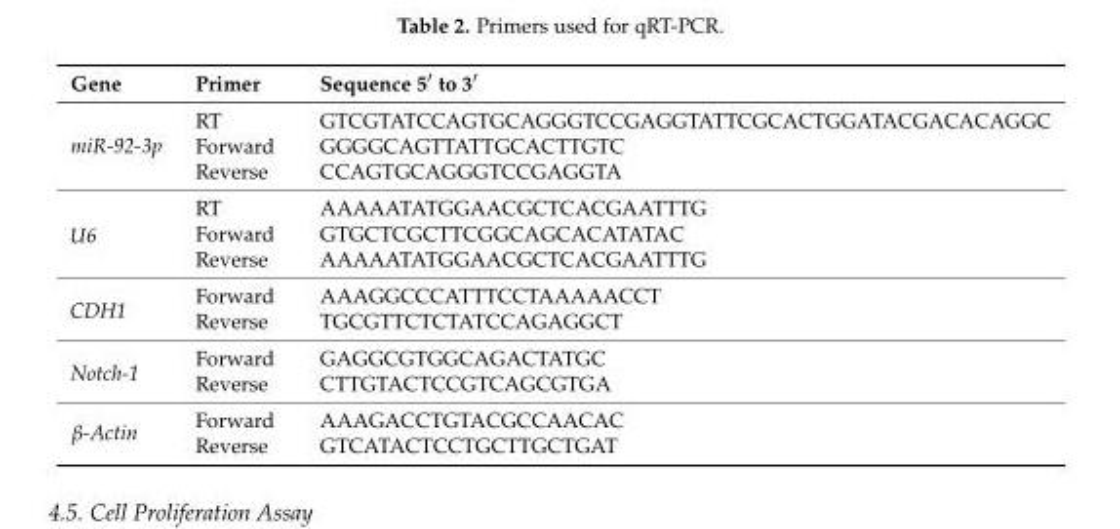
<table><thead><tr><td>Gene</td><td>Primer</td><td>Sequence 5′ to 3′</td></tr></thead><tbody><tr><td rowspan="3">miR-92-3p</td><td>RT</td><td>GTCGTATCCAGTGCAGGGTCCGAGGTATTCGCACTGGATACGACACAGGC</td></tr><tr><td>Forward</td><td>GGGGCAGTTATTGCACTTGTC</td></tr><tr><td>Reverse</td><td>CCAGTGCAGGGTCCGAGGTA</td></tr><tr><td rowspan="3">U6</td><td>RT</td><td>AAAAATATGGAACGCTCACGAATTTG</td></tr><tr><td>Forward</td><td>GTGCTCGCTTCGGCAGCACATATAC</td></tr><tr><td>Reverse</td><td>AAAAATATGGAACGCTCACGAATTTG</td></tr><tr><td rowspan="2">CDH1</td><td>Forward</td><td>AAAGGCCCATTTCCTAAAAACCT</td></tr><tr><td>Reverse</td><td>TGCGTTCTCTATCCAGAGGCT</td></tr><tr><td rowspan="2">Notch-1</td><td>Forward</td><td>GAGGCGTGGCAGACTATGC</td></tr><tr><td>Reverse</td><td>CTTGTACTCCGTCAGCGTGA</td></tr><tr><td rowspan="2">β-Actin</td><td>Forward</td><td>AAAGACCTGTACGCCAACAC</td></tr><tr><td>Reverse</td><td>GTCATACTCCTGCTTGCTGAT</td></tr></tbody></table>